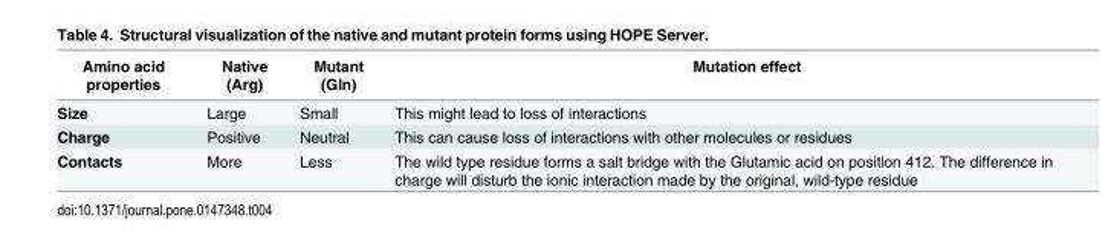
<table><thead><tr><td>Amino acid properties</td><td>Native (Arg)</td><td>Mutant (Gln)</td><td>Mutation effect</td></tr></thead><tbody><tr><td>Size</td><td>Large</td><td>Small</td><td>This might lead to loss of interactions</td></tr><tr><td>Charge</td><td>Positive</td><td>Neutral</td><td>This can cause loss of interactions with other molecules or residues</td></tr><tr><td>Contacts</td><td>More</td><td>Less</td><td>The wild type residue forms a salt bridge with the Glutamic acid on position 412. The difference in charge will disturb the ionic interaction made by the original, wild-type residue</td></tr></tbody></table>